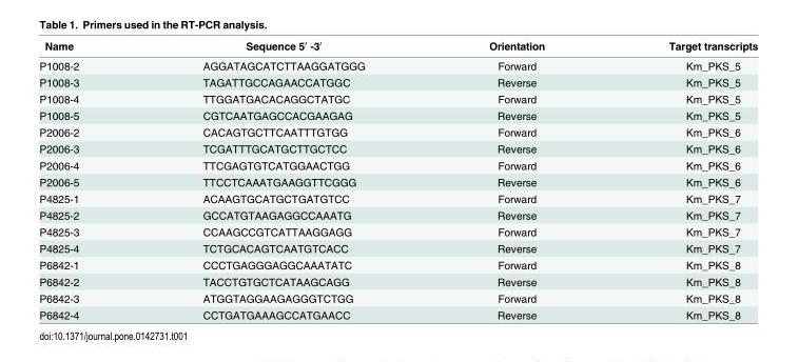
<table><thead><tr><td>Name</td><td>Sequence 5′ -3′</td><td>Orientation</td><td>Target transcripts</td></tr></thead><tbody><tr><td>P1008-2</td><td>AGGATAGCATCTTAAGGATGGG</td><td>Forward</td><td>Km_PKS_5</td></tr><tr><td>P1008-3</td><td>TAGATTGCCAGAACCATGGC</td><td>Reverse</td><td>Km_PKS_5</td></tr><tr><td>P1008-4</td><td>TTGGATGACACAGGCTATGC</td><td>Forward</td><td>Km_PKS_5</td></tr><tr><td>P1008-5</td><td>CGTCAATGAGCCACGAAGAG</td><td>Reverse</td><td>Km_PKS_5</td></tr><tr><td>P2006-2</td><td>CACAGTGCTTCAATTTGTGG</td><td>Forward</td><td>Km_PKS_6</td></tr><tr><td>P2006-3</td><td>TCGATTTGCATGCTTGCTCC</td><td>Reverse</td><td>Km_PKS_6</td></tr><tr><td>P2006-4</td><td>TTCGAGTGTCATGGAACTGG</td><td>Forward</td><td>Km_PKS_6</td></tr><tr><td>P2006-5</td><td>TTCCTCAAATGAAGGTTCGGG</td><td>Reverse</td><td>Km_PKS_6</td></tr><tr><td>P4825-1</td><td>ACAAGTGCATGCTGATGTCC</td><td>Forward</td><td>Km_PKS_7</td></tr><tr><td>P4825-2</td><td>GCCATGTAAGAGGCCAAATG</td><td>Reverse</td><td>Km_PKS_7</td></tr><tr><td>P4825-3</td><td>CCAAGCCGTCATTAAGGAGG</td><td>Forward</td><td>Km_PKS_7</td></tr><tr><td>P4825-4</td><td>TCTGCACAGTCAATGTCACC</td><td>Reverse</td><td>Km_PKS_7</td></tr><tr><td>P6842-1</td><td>CCCTGAGGGAGGCAAATATC</td><td>Forward</td><td>Km_PKS_8</td></tr><tr><td>P6842-2</td><td>TACCTGTGCTCATAAGCAGG</td><td>Reverse</td><td>Km_PKS_8</td></tr><tr><td>P6842-3</td><td>ATGGTAGGAAGAGGGTCTGG</td><td>Forward</td><td>Km_PKS_8</td></tr><tr><td>P6842-4</td><td>CCTGATGAAAGCCATGAACC</td><td>Reverse</td><td>Km_PKS_8</td></tr></tbody></table>